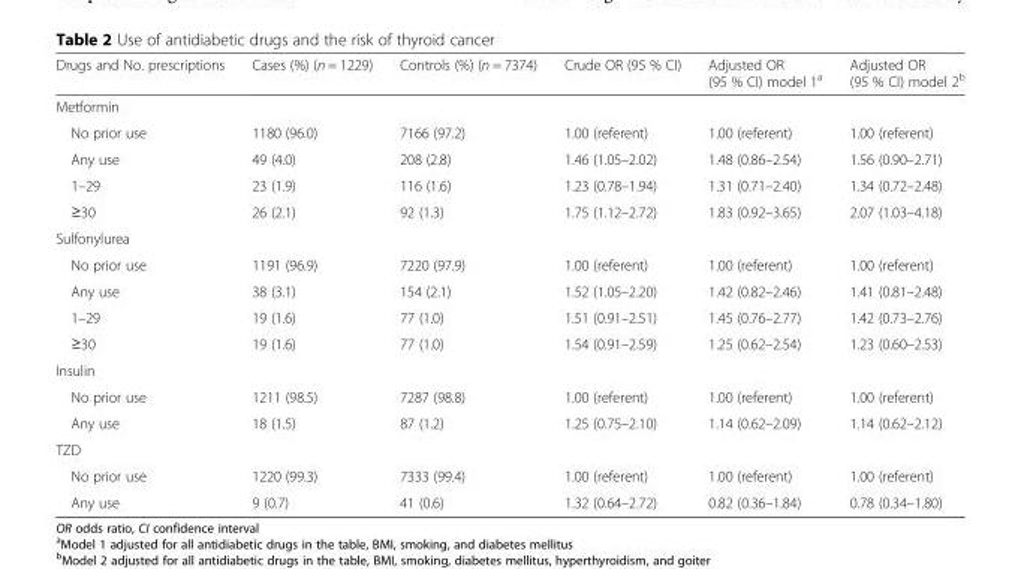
<table><thead><tr><td>Drugs and No. prescriptions</td><td>Cases (%) (n = 1229)</td><td>Controls (%) (n = 7374)</td><td>Crude OR (95 % CI)</td><td>Adjusted OR (95 % CI) model 1<sup>a</sup></td><td>Adjusted OR (95 % CI) model 2<sup>b</sup></td></tr></thead><tbody><tr><td colspan="6">Metformin</td></tr><tr><td>No prior use</td><td>1180 (96.0)</td><td>7166 (97.2)</td><td>1.00 (referent)</td><td>1.00 (referent)</td><td>1.00 (referent)</td></tr><tr><td>Any use</td><td>49 (4.0)</td><td>208 (2.8)</td><td>1.46 (1.05–2.02)</td><td>1.48 (0.86–2.54)</td><td>1.56 (0.90–2.71)</td></tr><tr><td>1–29</td><td>23 (1.9)</td><td>116 (1.6)</td><td>1.23 (0.78–1.94)</td><td>1.31 (0.71–2.40)</td><td>1.34 (0.72–2.48)</td></tr><tr><td>≥30</td><td>26 (2.1)</td><td>92 (1.3)</td><td>1.75 (1.12–2.72)</td><td>1.83 (0.92–3.65)</td><td>2.07 (1.03–4.18)</td></tr><tr><td colspan="6">Sulfonylurea</td></tr><tr><td>No prior use</td><td>1191 (96.9)</td><td>7220 (97.9)</td><td>1.00 (referent)</td><td>1.00 (referent)</td><td>1.00 (referent)</td></tr><tr><td>Any use</td><td>38 (3.1)</td><td>154 (2.1)</td><td>1.52 (1.05–2.20)</td><td>1.42 (0.82–2.46)</td><td>1.41 (0.81–2.48)</td></tr><tr><td>1–29</td><td>19 (1.6)</td><td>77 (1.0)</td><td>1.51 (0.91–2.51)</td><td>1.45 (0.76–2.77)</td><td>1.42 (0.73–2.76)</td></tr><tr><td>≥30</td><td>19 (1.6)</td><td>77 (1.0)</td><td>1.54 (0.91–2.59)</td><td>1.25 (0.62–2.54)</td><td>1.23 (0.60–2.53)</td></tr><tr><td colspan="6">Insulin</td></tr><tr><td>No prior use</td><td>1211 (98.5)</td><td>7287 (98.8)</td><td>1.00 (referent)</td><td>1.00 (referent)</td><td>1.00 (referent)</td></tr><tr><td>Any use</td><td>18 (1.5)</td><td>87 (1.2)</td><td>1.25 (0.75–2.10)</td><td>1.14 (0.62–2.09)</td><td>1.14 (0.62–2.12)</td></tr><tr><td colspan="6">TZD</td></tr><tr><td>No prior use</td><td>1220 (99.3)</td><td>7333 (99.4)</td><td>1.00 (referent)</td><td>1.00 (referent)</td><td>1.00 (referent)</td></tr><tr><td>Any use</td><td>9 (0.7)</td><td>41 (0.6)</td><td>1.32 (0.64–2.72)</td><td>0.82 (0.36–1.84)</td><td>0.78 (0.34–1.80)</td></tr></tbody></table>